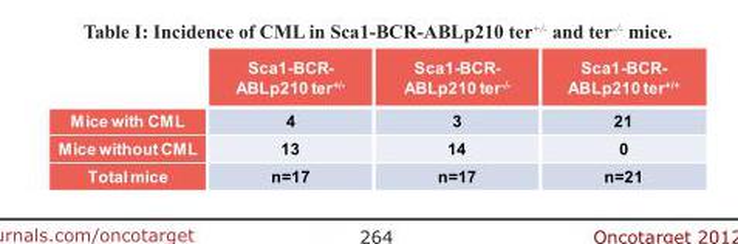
<table><thead><tr><td></td><td>Sca1-BCR- ABLp210 ter<sup>+/-</sup></td><td>Sca1-BCR- ABLp210 ter<sup>-/-</sup></td><td>Sca1-BCR- ABLp210 ter<sup>+/+</sup></td></tr></thead><tbody><tr><td>Mice with CML</td><td>4</td><td>3</td><td>21</td></tr><tr><td>Mice without CML</td><td>13</td><td>14</td><td>0</td></tr><tr><td>Total mice</td><td>n=17</td><td>n=17</td><td>n=21</td></tr></tbody></table>